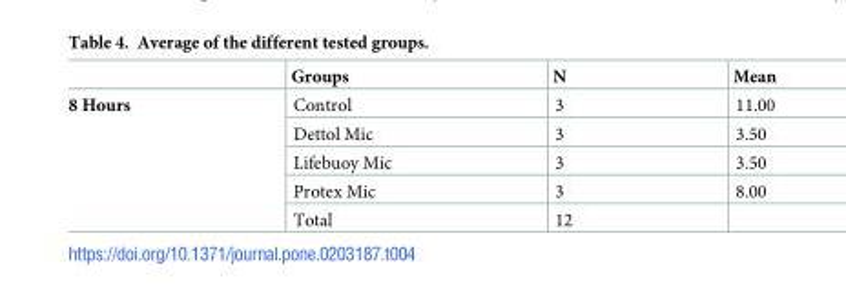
<table><thead><tr><td></td><td>Groups</td><td>N</td><td>Mean</td></tr></thead><tbody><tr><td rowspan="5">8 Hours</td><td>Control</td><td>3</td><td>11.00</td></tr><tr><td>Dettol Mic</td><td>3</td><td>3.50</td></tr><tr><td>Lifebuoy Mic</td><td>3</td><td>3.50</td></tr><tr><td>Protex Mic</td><td>3</td><td>8.00</td></tr><tr><td>Total</td><td>12</td><td></td></tr></tbody></table>